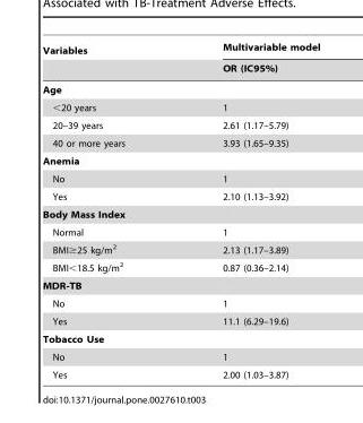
<table><thead><tr><td rowspan="2">Variables</td><td rowspan="2">Multivariable model OR (IC95%)</td></tr><tr></tr></thead><tbody><tr><td colspan="2">Age</td></tr><tr><td>&lt;20 years</td><td>1</td></tr><tr><td>20–39 years</td><td>2.61 (1.17–5.79)</td></tr><tr><td>40 or more years</td><td>3.93 (1.65–9.35)</td></tr><tr><td colspan="2">Anemia</td></tr><tr><td>No</td><td>1</td></tr><tr><td>Yes</td><td>2.10 (1.13–3.92)</td></tr><tr><td colspan="2">Body Mass Index</td></tr><tr><td>Normal</td><td>1</td></tr><tr><td>BMI≥25 kg/m<sup>2</sup></td><td>2.13 (1.17–3.89)</td></tr><tr><td>BMI&lt;18.5 kg/m<sup>2</sup></td><td>0.87 (0.36–2.14)</td></tr><tr><td colspan="2">MDR-TB</td></tr><tr><td>No</td><td>1</td></tr><tr><td>Yes</td><td>11.1 (6.29–19.6)</td></tr><tr><td colspan="2">Tobacco Use</td></tr><tr><td>No</td><td>1</td></tr><tr><td>Yes</td><td>2.00 (1.03–3.87)</td></tr></tbody></table>